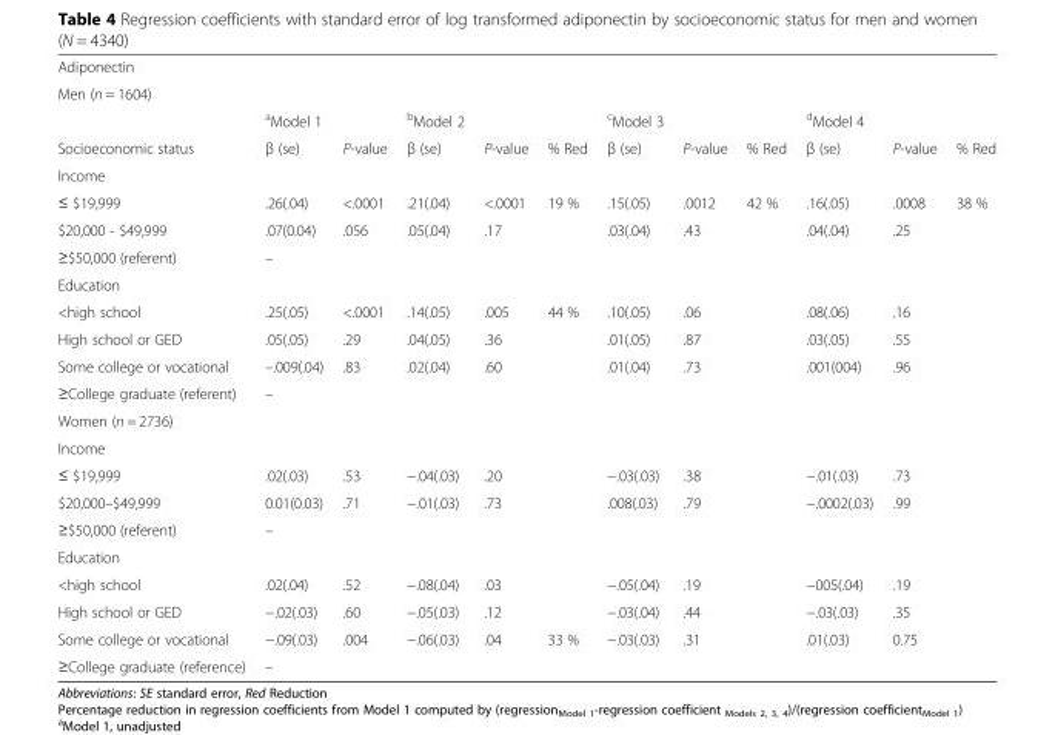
<table><tbody><tr><td colspan="12">Adiponectin</td></tr><tr><td colspan="12">Men (n = 1604)</td></tr><tr><td></td><td><sup>a</sup>Model 1</td><td></td><td><sup>b</sup>Model 2</td><td></td><td></td><td><sup>c</sup>Model 3</td><td></td><td></td><td><sup>d</sup>Model 4</td><td></td><td></td></tr><tr><td>Socioeconomic status</td><td>β (se)</td><td>P-value</td><td>β (se)</td><td>P-value</td><td>% Red</td><td>β (se)</td><td>P-value</td><td>% Red</td><td>β (se)</td><td>P-value</td><td>% Red</td></tr><tr><td colspan="12">Income</td></tr><tr><td>≤ $19,999</td><td>.26(.04)</td><td>&lt;.0001</td><td>.21(.04)</td><td>&lt;.0001</td><td>19 %</td><td>.15(.05)</td><td>.0012</td><td>42 %</td><td>.16(.05)</td><td>.0008</td><td>38 %</td></tr><tr><td>$20,000 - $49,999</td><td>.07(0.04)</td><td>.056</td><td>.05(.04)</td><td>.17</td><td></td><td>.03(.04)</td><td>.43</td><td></td><td>.04(.04)</td><td>.25</td><td></td></tr><tr><td>≥$50,000 (referent)</td><td>–</td><td></td><td></td><td></td><td></td><td></td><td></td><td></td><td></td><td></td><td></td></tr><tr><td colspan="12">Education</td></tr><tr><td>&lt;high school</td><td>.25(.05)</td><td>&lt;.0001</td><td>.14(.05)</td><td>.005</td><td>44 %</td><td>.10(.05)</td><td>.06</td><td></td><td>.08(.06)</td><td>.16</td><td></td></tr><tr><td>High school or GED</td><td>.05(.05)</td><td>.29</td><td>.04(.05)</td><td>.36</td><td></td><td>.01(.05)</td><td>.87</td><td></td><td>.03(.05)</td><td>.55</td><td></td></tr><tr><td>Some college or vocational</td><td>–.009(.04)</td><td>.83</td><td>.02(.04)</td><td>.60</td><td></td><td>.01(.04)</td><td>.73</td><td></td><td>.001(004)</td><td>.96</td><td></td></tr><tr><td>≥College graduate (referent)</td><td>–</td><td></td><td></td><td></td><td></td><td></td><td></td><td></td><td></td><td></td><td></td></tr><tr><td colspan="12">Women (n = 2736)</td></tr><tr><td colspan="12">Income</td></tr><tr><td>≤ $19,999</td><td>.02(.03)</td><td>.53</td><td>−.04(.03)</td><td>.20</td><td></td><td>−.03(.03)</td><td>.38</td><td></td><td>−.01(.03)</td><td>.73</td><td></td></tr><tr><td>$20,000–$49,999</td><td>0.01(0.03)</td><td>.71</td><td>−.01(.03)</td><td>.73</td><td></td><td>.008(.03)</td><td>.79</td><td></td><td>−.0002(.03)</td><td>.99</td><td></td></tr><tr><td>≥$50,000 (referent)</td><td>–</td><td></td><td></td><td></td><td></td><td></td><td></td><td></td><td></td><td></td><td></td></tr><tr><td colspan="12">Education</td></tr><tr><td>&lt;high school</td><td>.02(.04)</td><td>.52</td><td>−.08(.04)</td><td>.03</td><td></td><td>−.05(.04)</td><td>.19</td><td></td><td>−005(.04)</td><td>.19</td><td></td></tr><tr><td>High school or GED</td><td>−.02(.03)</td><td>.60</td><td>−.05(.03)</td><td>.12</td><td></td><td>−.03(.04)</td><td>.44</td><td></td><td>−.03(.03)</td><td>.35</td><td></td></tr><tr><td>Some college or vocational</td><td>−.09(.03)</td><td>.004</td><td>−.06(.03)</td><td>.04</td><td>33 %</td><td>−.03(.03)</td><td>.31</td><td></td><td>.01(.03)</td><td>0.75</td><td></td></tr><tr><td>≥College graduate (reference)</td><td>–</td><td></td><td></td><td></td><td></td><td></td><td></td><td></td><td></td><td></td><td></td></tr></tbody></table>